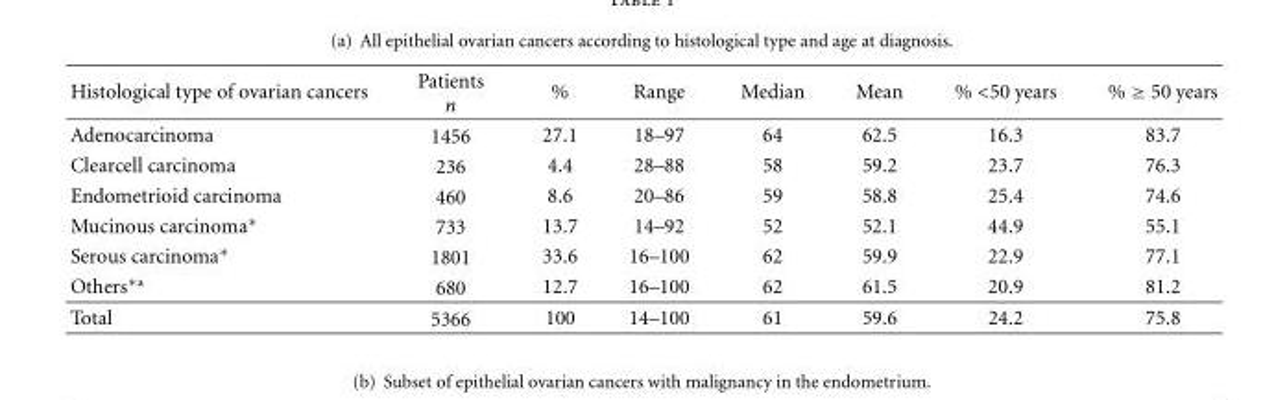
<table><thead><tr><td>Histological type of ovarian cancers</td><td>Patients n</td><td>%</td><td>Range</td><td>Median</td><td>Mean</td><td>% &lt;50 years</td><td>% ≥ 50 years</td></tr></thead><tbody><tr><td>Adenocarcinoma</td><td>1456</td><td>27.1</td><td>18–97</td><td>64</td><td>62.5</td><td>16.3</td><td>83.7</td></tr><tr><td>Clearcell carcinoma</td><td>236</td><td>4.4</td><td>28–88</td><td>58</td><td>59.2</td><td>23.7</td><td>76.3</td></tr><tr><td>Endometrioid carcinoma</td><td>460</td><td>8.6</td><td>20–86</td><td>59</td><td>58.8</td><td>25.4</td><td>74.6</td></tr><tr><td>Mucinous carcinoma∗</td><td>733</td><td>13.7</td><td>14–92</td><td>52</td><td>52.1</td><td>44.9</td><td>55.1</td></tr><tr><td>Serous carcinoma∗</td><td>1801</td><td>33.6</td><td>16–100</td><td>62</td><td>59.9</td><td>22.9</td><td>77.1</td></tr><tr><td>Others<sup>∗a</sup></td><td>680</td><td>12.7</td><td>16–100</td><td>62</td><td>61.5</td><td>20.9</td><td>81.2</td></tr><tr><td>Total</td><td>5366</td><td>100</td><td>14–100</td><td>61</td><td>59.6</td><td>24.2</td><td>75.8</td></tr></tbody></table>